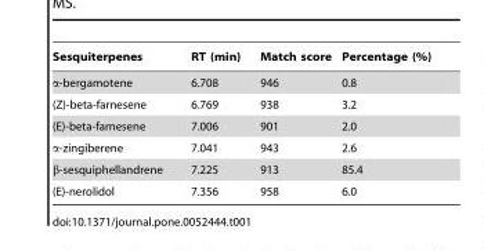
<table><thead><tr><td>Sesquiterpenes</td><td>RT (min)</td><td>Match score</td><td>Percentage (%)</td></tr></thead><tbody><tr><td>α-bergamotene</td><td>6.708</td><td>946</td><td>0.8</td></tr><tr><td>(Z)-beta-farnesene</td><td>6.769</td><td>938</td><td>3.2</td></tr><tr><td>(E)-beta-farnesene</td><td>7.006</td><td>901</td><td>2.0</td></tr><tr><td>α-zingiberene</td><td>7.041</td><td>943</td><td>2.6</td></tr><tr><td>β-sesquiphellandrene</td><td>7.225</td><td>913</td><td>85.4</td></tr><tr><td>(E)-nerolidol</td><td>7.356</td><td>958</td><td>6.0</td></tr></tbody></table>